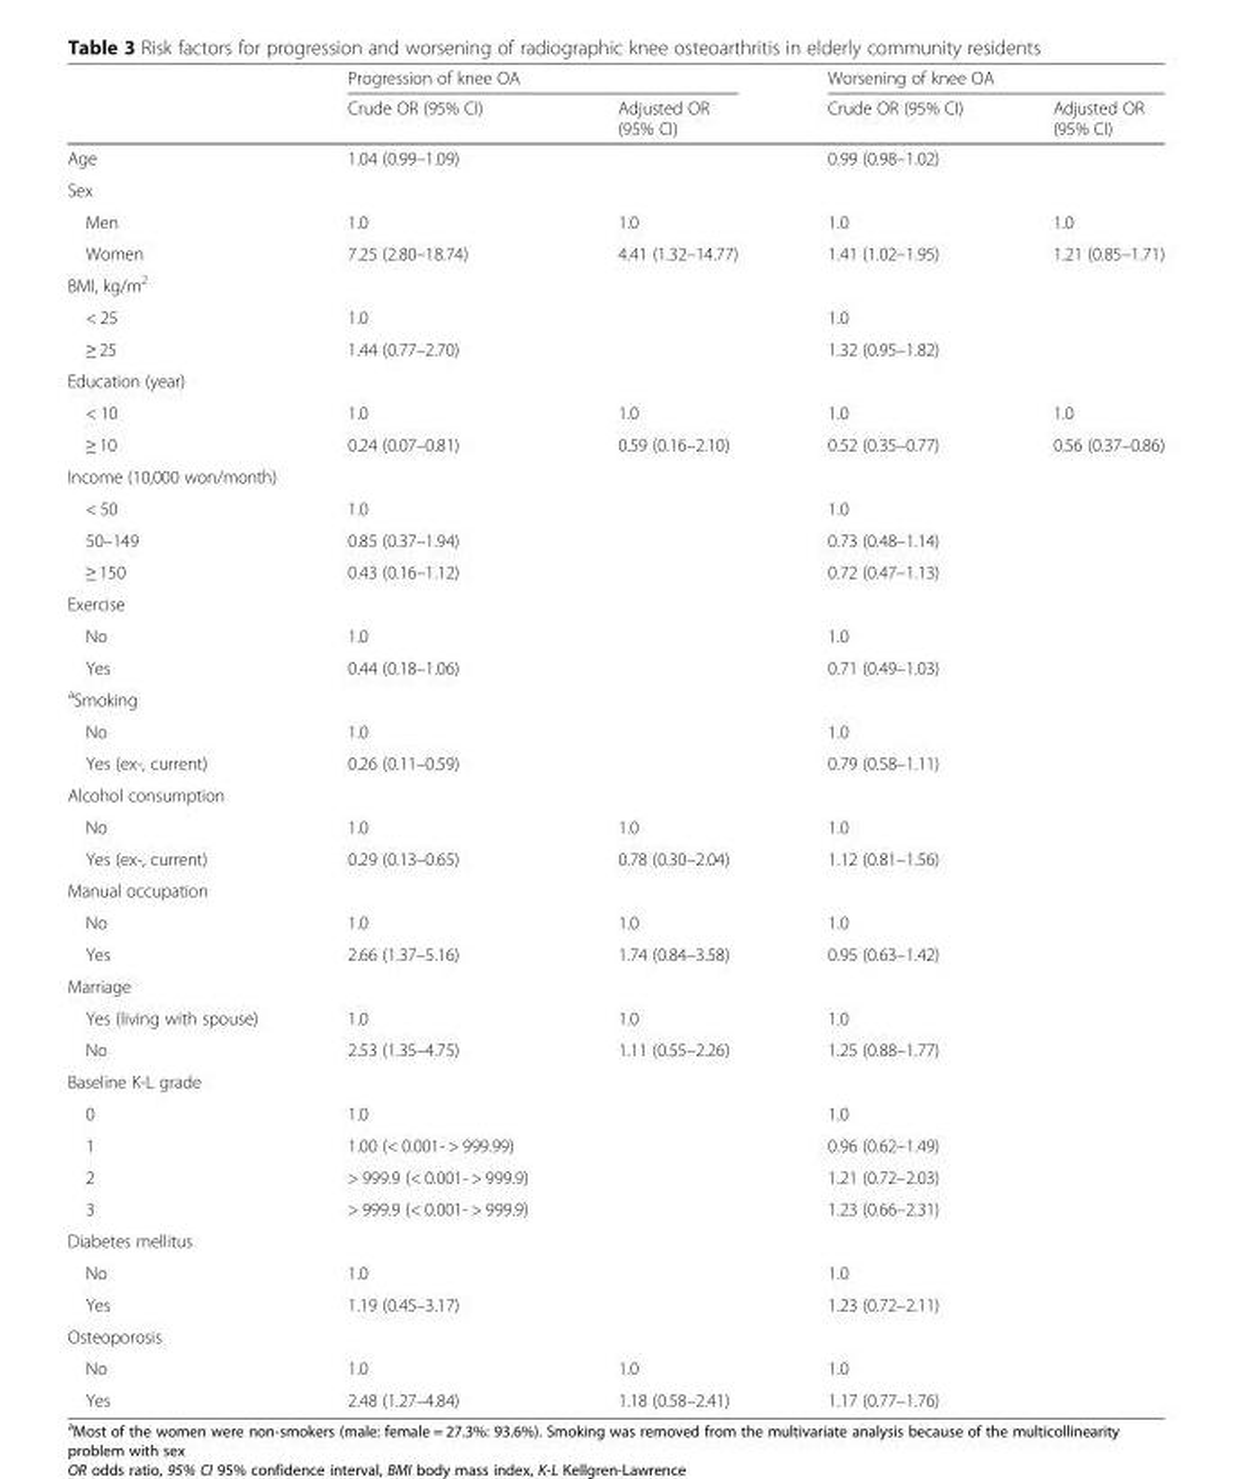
<table><thead><tr><td rowspan="2"></td><td colspan="2">Progression of knee OA</td><td colspan="2">Worsening of knee OA</td></tr><tr><td>Crude OR (95% CI)</td><td>Adjusted OR (95% CI)</td><td>Crude OR (95% CI)</td><td>Adjusted OR (95% CI)</td></tr></thead><tbody><tr><td>Age</td><td>1.04 (0.99–1.09)</td><td></td><td>0.99 (0.98–1.02)</td><td></td></tr><tr><td colspan="5">Sex</td></tr><tr><td>Men</td><td>1.0</td><td>1.0</td><td>1.0</td><td>1.0</td></tr><tr><td>Women</td><td>7.25 (2.80–18.74)</td><td>4.41 (1.32–14.77)</td><td>1.41 (1.02–1.95)</td><td>1.21 (0.85–1.71)</td></tr><tr><td colspan="5">BMI, kg/m<sup>2</sup></td></tr><tr><td>&lt; 25</td><td>1.0</td><td></td><td>1.0</td><td></td></tr><tr><td>≥ 25</td><td>1.44 (0.77–2.70)</td><td></td><td>1.32 (0.95–1.82)</td><td></td></tr><tr><td colspan="5">Education (year)</td></tr><tr><td>&lt; 10</td><td>1.0</td><td>1.0</td><td>1.0</td><td>1.0</td></tr><tr><td>≥ 10</td><td>0.24 (0.07–0.81)</td><td>0.59 (0.16–2.10)</td><td>0.52 (0.35–0.77)</td><td>0.56 (0.37–0.86)</td></tr><tr><td colspan="5">Income (10,000 won/month)</td></tr><tr><td>&lt; 50</td><td>1.0</td><td></td><td>1.0</td><td></td></tr><tr><td>50–149</td><td>0.85 (0.37–1.94)</td><td></td><td>0.73 (0.48–1.14)</td><td></td></tr><tr><td>≥ 150</td><td>0.43 (0.16–1.12)</td><td></td><td>0.72 (0.47–1.13)</td><td></td></tr><tr><td colspan="5">Exercise</td></tr><tr><td>No</td><td>1.0</td><td></td><td>1.0</td><td></td></tr><tr><td>Yes</td><td>0.44 (0.18–1.06)</td><td></td><td>0.71 (0.49–1.03)</td><td></td></tr><tr><td colspan="5"><sup>a</sup>Smoking</td></tr><tr><td>No</td><td>1.0</td><td></td><td>1.0</td><td></td></tr><tr><td>Yes (ex-, current)</td><td>0.26 (0.11–0.59)</td><td></td><td>0.79 (0.58–1.11)</td><td></td></tr><tr><td colspan="5">Alcohol consumption</td></tr><tr><td>No</td><td>1.0</td><td>1.0</td><td>1.0</td><td></td></tr><tr><td>Yes (ex-, current)</td><td>0.29 (0.13–0.65)</td><td>0.78 (0.30–2.04)</td><td>1.12 (0.81–1.56)</td><td></td></tr><tr><td colspan="5">Manual occupation</td></tr><tr><td>No</td><td>1.0</td><td>1.0</td><td>1.0</td><td></td></tr><tr><td>Yes</td><td>2.66 (1.37–5.16)</td><td>1.74 (0.84–3.58)</td><td>0.95 (0.63–1.42)</td><td></td></tr><tr><td colspan="5">Marriage</td></tr><tr><td>Yes (living with spouse)</td><td>1.0</td><td>1.0</td><td>1.0</td><td></td></tr><tr><td>No</td><td>2.53 (1.35–4.75)</td><td>1.11 (0.55–2.26)</td><td>1.25 (0.88–1.77)</td><td></td></tr><tr><td colspan="5">Baseline K-L grade</td></tr><tr><td>0</td><td>1.0</td><td></td><td>1.0</td><td></td></tr><tr><td>1</td><td>1.00 (&lt; 0.001- &gt; 999.99)</td><td></td><td>0.96 (0.62–1.49)</td><td></td></tr><tr><td>2</td><td>&gt; 999.9 (&lt; 0.001- &gt; 999.9)</td><td></td><td>1.21 (0.72–2.03)</td><td rowspan="2"></td></tr><tr><td>3</td><td>&gt; 999.9 (&lt; 0.001- &gt; 999.9)</td><td></td><td>1.23 (0.66–2.31)</td></tr><tr><td colspan="5">Diabetes mellitus</td></tr><tr><td>No</td><td>1.0</td><td></td><td>1.0</td><td></td></tr><tr><td>Yes</td><td>1.19 (0.45–3.17)</td><td></td><td>1.23 (0.72–2.11)</td><td></td></tr><tr><td colspan="5">Osteoporosis</td></tr><tr><td>No</td><td>1.0</td><td>1.0</td><td>1.0</td><td rowspan="2"></td></tr><tr><td>Yes</td><td>2.48 (1.27–4.84)</td><td>1.18 (0.58–2.41)</td><td>1.17 (0.77–1.76)</td></tr></tbody></table>